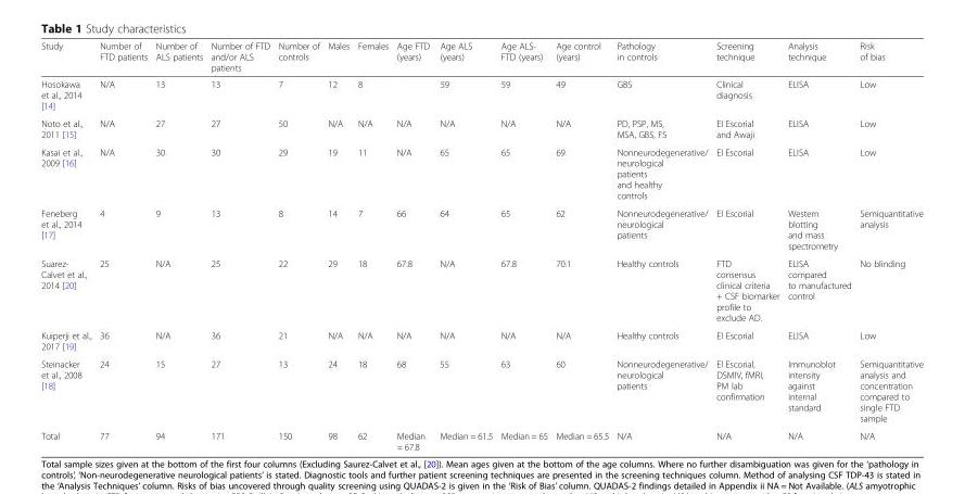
<table><thead><tr><td>Study</td><td>Number of FTD patients</td><td>Number of ALS patients</td><td>Number of FTD and/or ALS patients</td><td>Number of controls</td><td>Males</td><td>Females</td><td>Age FTD (years)</td><td>Age ALS (years)</td><td>Age ALS- FTD (years)</td><td>Age control (years)</td><td>Pathology in controls</td><td>Screening technique</td><td>Analysis technique</td><td>Risk of bias</td></tr></thead><tbody><tr><td>Hosokawa et al., 2014 [14]</td><td>N/A</td><td>13</td><td>13</td><td>7</td><td>12</td><td>8</td><td></td><td>59</td><td>59</td><td>49</td><td>GBS</td><td>Clinical diagnosis</td><td>ELISA</td><td>Low</td></tr><tr><td>Noto et al., 2011 [15]</td><td>N/A</td><td>27</td><td>27</td><td>50</td><td>N/A</td><td>N/A</td><td>N/A</td><td>N/A</td><td>N/A</td><td>N/A</td><td>PD, PSP, MS, MSA, GBS, FS</td><td>El Escorial and Awaji</td><td>ELISA</td><td>Low</td></tr><tr><td>Kasai et al., 2009 [16]</td><td>N/A</td><td>30</td><td>30</td><td>29</td><td>19</td><td>11</td><td>N/A</td><td>65</td><td>65</td><td>69</td><td>Nonneurodegenerative/ neurological patients and healthy controls</td><td>El Escorial</td><td>ELISA</td><td>Low</td></tr><tr><td>Feneberg et al., 2014 [17]</td><td>4</td><td>9</td><td>13</td><td>8</td><td>14</td><td>7</td><td>66</td><td>64</td><td>65</td><td>62</td><td>Nonneurodegenerative/ neurological patients</td><td>El Escorial</td><td>Western blotting and mass spectrometry</td><td>Semiquantitative analysis</td></tr><tr><td>Suarez- Calvet et al., 2014 [20]</td><td>25</td><td>N/A</td><td>25</td><td>22</td><td>29</td><td>18</td><td>67.8</td><td>N/A</td><td>67.8</td><td>70.1</td><td>Healthy controls</td><td>FTD consensus clinical criteria + CSF biomarker profile to exclude AD.</td><td>ELISA compared to manufactured control</td><td>No blinding</td></tr><tr><td>Kuiperji et al., 2017 [19]</td><td>36</td><td>N/A</td><td>36</td><td>21</td><td>N/A</td><td>N/A</td><td>N/A</td><td>N/A</td><td>N/A</td><td>N/A</td><td>Healthy controls</td><td>El Escorial</td><td>ELISA</td><td>Low</td></tr><tr><td>Steinacker et al., 2008 [18]</td><td>24</td><td>15</td><td>27</td><td>13</td><td>24</td><td>18</td><td>68</td><td>55</td><td>63</td><td>60</td><td>Nonneurodegenerative/ neurological patients</td><td>El Escorial, DSMIV, fMRI, PM lab confirmation</td><td>Immunoblot intensity against internal standard</td><td>Semiquantitative analysis and concentration compared to single FTD sample</td></tr><tr><td>Total</td><td>77</td><td>94</td><td>171</td><td>150</td><td>98</td><td>62</td><td>Median = 67.8</td><td>Median = 61.5</td><td>Median = 65</td><td>Median = 65.5</td><td>N/A</td><td>N/A</td><td>N/A</td><td>N/A</td></tr></tbody></table>